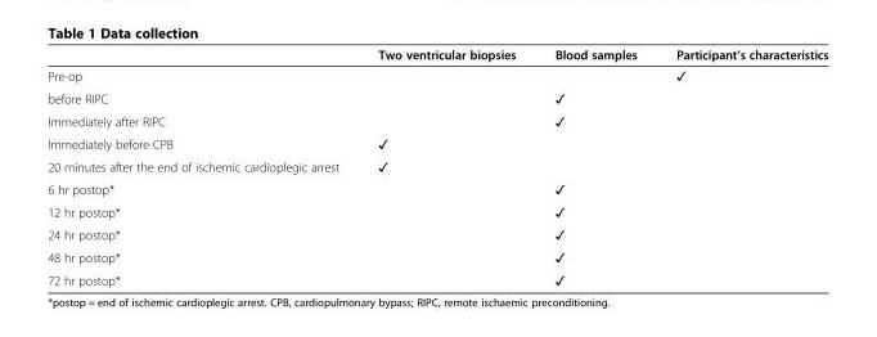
<table><thead><tr><td></td><td>Two ventricular biopsies</td><td>Blood samples</td><td>Participant’s characteristics</td></tr></thead><tbody><tr><td>Pre-op</td><td></td><td></td><td>✓</td></tr><tr><td>before RIPC</td><td></td><td>✓</td><td></td></tr><tr><td>Immediately after RIPC</td><td></td><td>✓</td><td></td></tr><tr><td>Immediately before CPB</td><td>✓</td><td></td><td></td></tr><tr><td>20 minutes after the end of ischemic cardioplegic arrest</td><td>✓</td><td></td><td></td></tr><tr><td>6 hr postop*</td><td></td><td>✓</td><td></td></tr><tr><td>12 hr postop*</td><td></td><td>✓</td><td></td></tr><tr><td>24 hr postop*</td><td></td><td>✓</td><td></td></tr><tr><td>48 hr postop*</td><td></td><td>✓</td><td></td></tr><tr><td>72 hr postop*</td><td></td><td>✓</td><td></td></tr></tbody></table>